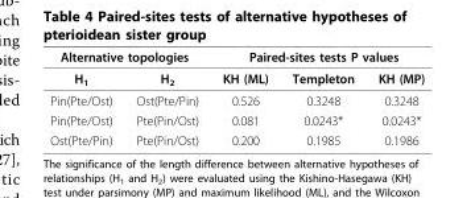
<table><thead><tr><td colspan="2">Alternative topologies</td><td colspan="3">Paired-sites tests P values</td></tr><tr><td>H<sub>1</sub></td><td>H<sub>2</sub></td><td>KH (ML)</td><td>Templeton</td><td>KH (MP)</td></tr></thead><tbody><tr><td>Pin(Pte/Ost)</td><td>Ost(Pte/Pin)</td><td>0.526</td><td>0.3248</td><td>0.3248</td></tr><tr><td>Pin(Pte/Ost)</td><td>Pte(Pin/Ost)</td><td>0.081</td><td>0.0243*</td><td>0.0243*</td></tr><tr><td>Ost(Pte/Pin)</td><td>Pte(Pin/Ost)</td><td>0.200</td><td>0.1985</td><td>0.1986</td></tr></tbody></table>